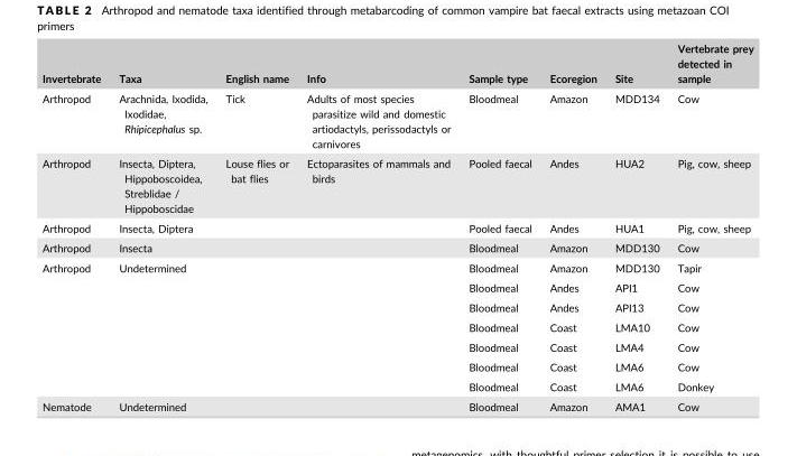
<table><thead><tr><td>Invertebrate</td><td>Taxa</td><td>English name</td><td>Info</td><td>Sample type</td><td>Ecoregion</td><td>Site</td><td>Vertebrate prey detected in sample</td></tr></thead><tbody><tr><td>Arthropod</td><td>Arachnida, Ixodida, Ixodidae, Rhipicephalus sp.</td><td>Tick</td><td>Adults of most species parasitize wild and domestic artiodactyls, perissodactyls or carnivores</td><td>Bloodmeal</td><td>Amazon</td><td>MDD134</td><td>Cow</td></tr><tr><td>Arthropod</td><td>Insecta, Diptera, Hippoboscoidea, Streblidae / Hippoboscidae</td><td>Louse flies or bat flies</td><td>Ectoparasites of mammals and birds</td><td>Pooled faecal</td><td>Andes</td><td>HUA2</td><td>Pig, cow, sheep</td></tr><tr><td>Arthropod</td><td>Insecta, Diptera</td><td></td><td></td><td>Pooled faecal</td><td>Andes</td><td>HUA1</td><td>Pig, cow, sheep</td></tr><tr><td>Arthropod</td><td>Insecta</td><td></td><td></td><td>Bloodmeal</td><td>Amazon</td><td>MDD130</td><td>Cow</td></tr><tr><td rowspan="7">Arthropod</td><td>Undetermined</td><td></td><td></td><td>Bloodmeal</td><td>Amazon</td><td>MDD130</td><td>Tapir</td></tr><tr><td></td><td></td><td></td><td>Bloodmeal</td><td>Andes</td><td>API1</td><td>Cow</td></tr><tr><td></td><td></td><td></td><td>Bloodmeal</td><td>Andes</td><td>API13</td><td>Cow</td></tr><tr><td></td><td></td><td></td><td>Bloodmeal</td><td>Coast</td><td>LMA10</td><td>Cow</td></tr><tr><td></td><td></td><td></td><td>Bloodmeal</td><td>Coast</td><td>LMA4</td><td>Cow</td></tr><tr><td></td><td></td><td></td><td>Bloodmeal</td><td>Coast</td><td>LMA6</td><td>Cow</td></tr><tr><td></td><td></td><td></td><td>Bloodmeal</td><td>Coast</td><td>LMA6</td><td>Donkey</td></tr><tr><td>Nematode</td><td>Undetermined</td><td></td><td></td><td>Bloodmeal</td><td>Amazon</td><td>AMA1</td><td>Cow</td></tr></tbody></table>